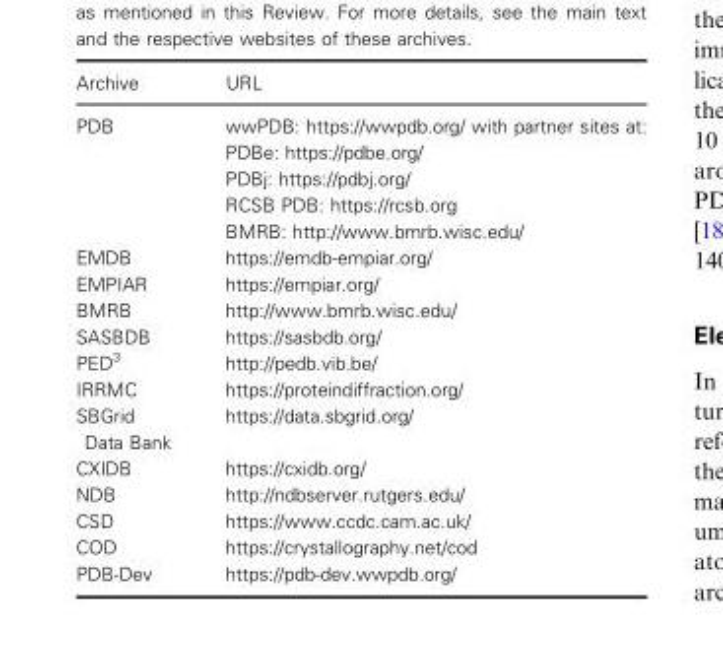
<table><thead><tr><td>Archive</td><td>URL</td></tr></thead><tbody><tr><td>PDB</td><td>wwPDB: https://wwpdb.org/ with partner sites at: PDBe: https://pdbe.org/ PDBj: https://pdbj.org/ RCSB PDB: https://rcsb.org BMRB: http://www.bmrb.wisc.edu/</td></tr><tr><td>EMDB</td><td>https://emdb-empiar.org/</td></tr><tr><td>EMPIAR</td><td>https://empiar.org/</td></tr><tr><td>BMRB</td><td>http://www.bmrb.wisc.edu/</td></tr><tr><td>SASBDB</td><td>https://sasbdb.org/</td></tr><tr><td>PED<sup>3</sup></td><td>http://pedb.vib.be/</td></tr><tr><td>IRRMC</td><td>https://proteindiffraction.org/</td></tr><tr><td>SBGrid Data Bank</td><td>https://data.sbgrid.org/</td></tr><tr><td>CXIDB</td><td>https://cxidb.org/</td></tr><tr><td>NDB</td><td>http://ndbserver.rutgers.edu/</td></tr><tr><td>CSD</td><td>https://www.ccdc.cam.ac.uk/</td></tr><tr><td>COD</td><td>https://crystallography.net/cod</td></tr><tr><td>PDB-Dev</td><td>https://pdb-dev.wwpdb.org/</td></tr></tbody></table>